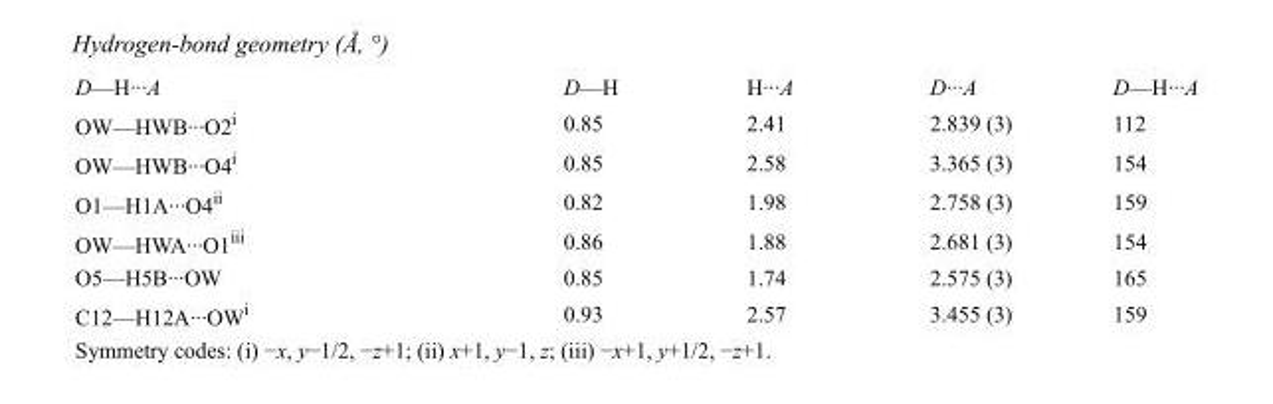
<table><tbody><tr><td>D—H···A</td><td>D—H</td><td>H···A</td><td>D···A</td><td>D—H···A</td></tr><tr><td>OW—HWB···O2<sup>i</sup></td><td>0.85</td><td>2.41</td><td>2.839 (3)</td><td>112</td></tr><tr><td>OW—HWB···O4<sup>i</sup></td><td>0.85</td><td>2.58</td><td>3.365 (3)</td><td>154</td></tr><tr><td>O1—H1A···O4<sup>ii</sup></td><td>0.82</td><td>1.98</td><td>2.758 (3)</td><td>159</td></tr><tr><td>OW—HWA···O1<sup>iii</sup></td><td>0.86</td><td>1.88</td><td>2.681 (3)</td><td>154</td></tr><tr><td>O5—H5B···OW</td><td>0.85</td><td>1.74</td><td>2.575 (3)</td><td>165</td></tr><tr><td>C12—H12A···OW<sup>i</sup></td><td>0.93</td><td>2.57</td><td>3.455 (3)</td><td>159</td></tr></tbody></table>